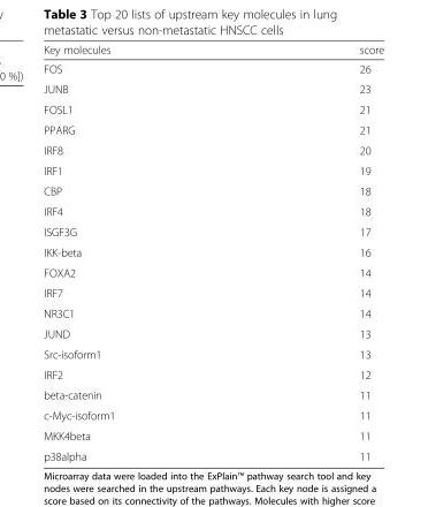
<table><thead><tr><td>Key molecules</td><td>score</td></tr></thead><tbody><tr><td>FOS</td><td>26</td></tr><tr><td>JUNB</td><td>23</td></tr><tr><td>FOSL1</td><td>21</td></tr><tr><td>PPARG</td><td>21</td></tr><tr><td>IRF8</td><td>20</td></tr><tr><td>IRF1</td><td>19</td></tr><tr><td>CBP</td><td>18</td></tr><tr><td>IRF4</td><td>18</td></tr><tr><td>ISGF3G</td><td>17</td></tr><tr><td>IKK-beta</td><td>16</td></tr><tr><td>FOXA2</td><td>14</td></tr><tr><td>IRF7</td><td>14</td></tr><tr><td>NR3C1</td><td>14</td></tr><tr><td>JUND</td><td>13</td></tr><tr><td>Src-isoform1</td><td>13</td></tr><tr><td>IRF2</td><td>12</td></tr><tr><td>beta-catenin</td><td>11</td></tr><tr><td>c-Myc-isoform1</td><td>11</td></tr><tr><td>MKK4beta</td><td>11</td></tr><tr><td>p38alpha</td><td>11</td></tr></tbody></table>